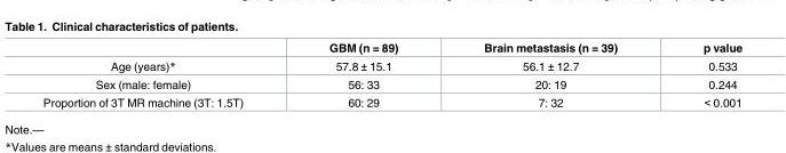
<table><thead><tr><td></td><td>GBM (n = 89)</td><td>Brain metastasis (n = 39)</td><td>p value</td></tr></thead><tbody><tr><td>Age (years)*</td><td>57.8 ± 15.1</td><td>56.1 ± 12.7</td><td>0.533</td></tr><tr><td>Sex (male: female)</td><td>56: 33</td><td>20: 19</td><td>0.244</td></tr><tr><td>Proportion of 3T MR machine (3T: 1.5T)</td><td>60: 29</td><td>7: 32</td><td>&lt; 0.001</td></tr></tbody></table>